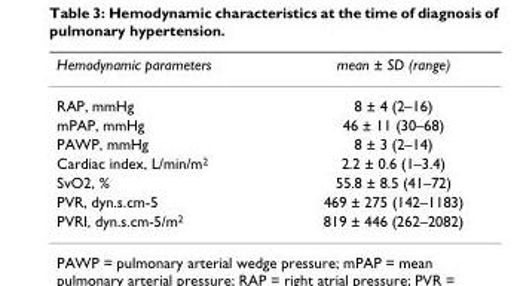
<table><thead><tr><td>Hemodynamic parameters</td><td>mean ± SD (range)</td></tr></thead><tbody><tr><td>RAP, mmHg</td><td>8 ± 4 (2–16)</td></tr><tr><td>mPAP, mmHg</td><td>46 ± 11 (30–68)</td></tr><tr><td>PAWP, mmHg</td><td>8 ± 3 (2–14)</td></tr><tr><td>Cardiac index, L/min/m<sup>2</sup></td><td>2.2 ± 0.6 (1–3.4)</td></tr><tr><td>SvO2, %</td><td>55.8 ± 8.5 (41–72)</td></tr><tr><td>PVR, dyn.s.cm-5</td><td>469 ± 275 (142–1183)</td></tr><tr><td>PVRI, dyn.s.cm-5/m<sup>2</sup></td><td>819 ± 446 (262–2082)</td></tr></tbody></table>